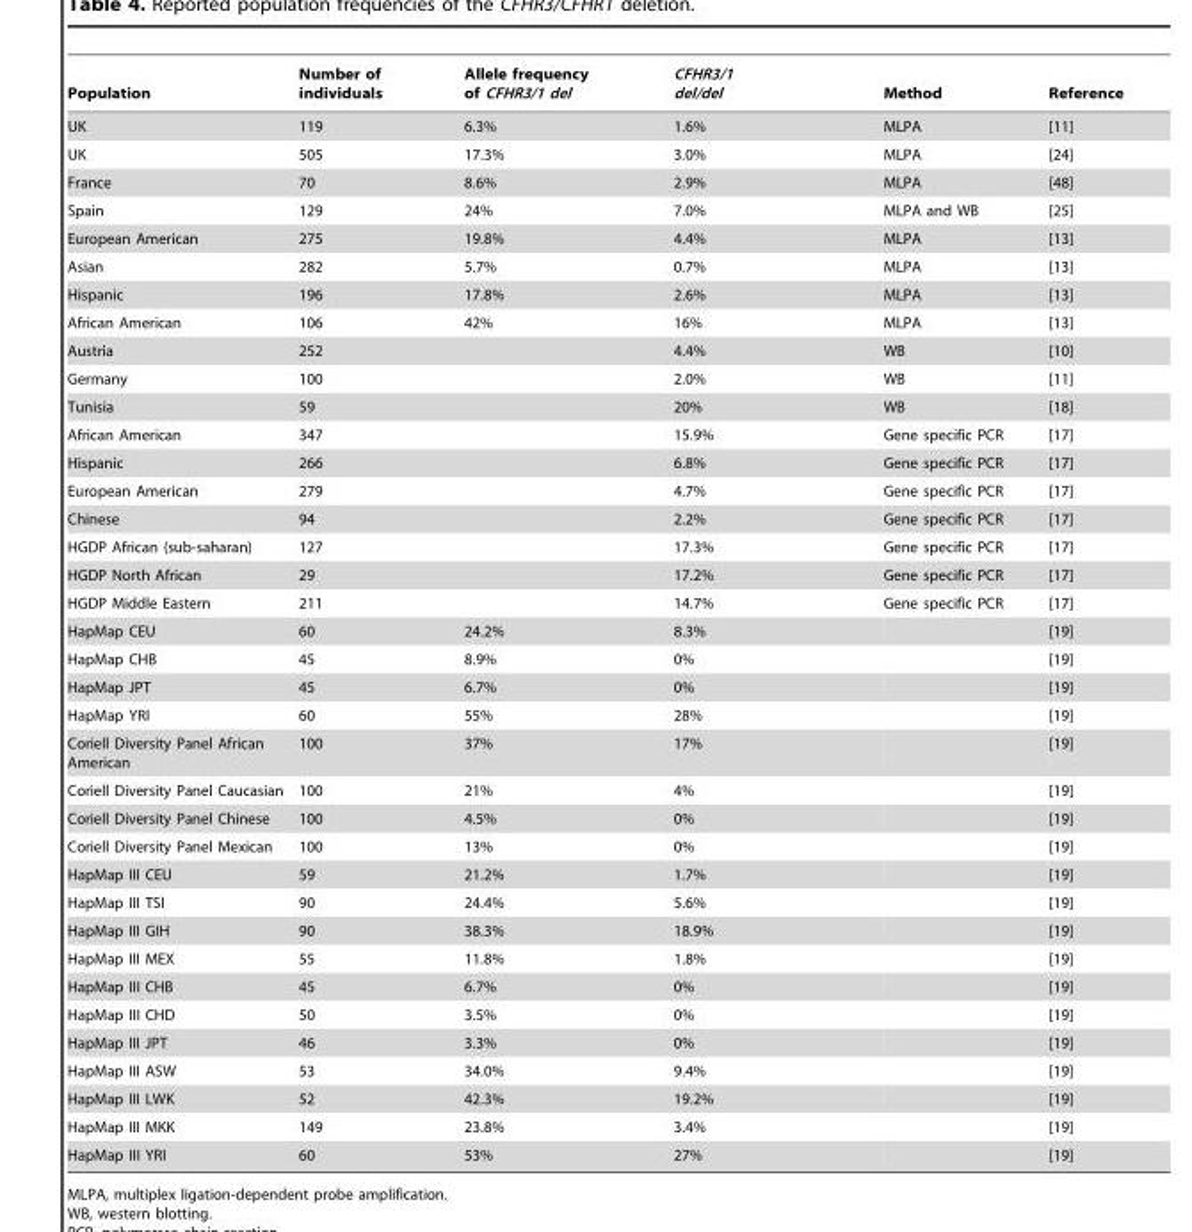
<table><thead><tr><td>Population</td><td>Number of individuals</td><td>Allele frequency of CFHR3/1 del</td><td>CFHR3/1 del/del</td><td>Method</td><td>Reference</td></tr></thead><tbody><tr><td>UK</td><td>119</td><td>6.3%</td><td>1.6%</td><td>MLPA</td><td>[11]</td></tr><tr><td>UK</td><td>505</td><td>17.3%</td><td>3.0%</td><td>MLPA</td><td>[24]</td></tr><tr><td>France</td><td>70</td><td>8.6%</td><td>2.9%</td><td>MLPA</td><td>[48]</td></tr><tr><td>Spain</td><td>129</td><td>24%</td><td>7.0%</td><td>MLPA and WB</td><td>[25]</td></tr><tr><td>European American</td><td>275</td><td>19.8%</td><td>4.4%</td><td>MLPA</td><td>[13]</td></tr><tr><td>Asian</td><td>282</td><td>5.7%</td><td>0.7%</td><td>MLPA</td><td>[13]</td></tr><tr><td>Hispanic</td><td>196</td><td>17.8%</td><td>2.6%</td><td>MLPA</td><td>[13]</td></tr><tr><td>African American</td><td>106</td><td>42%</td><td>16%</td><td>MLPA</td><td>[13]</td></tr><tr><td>Austria</td><td>252</td><td></td><td>4.4%</td><td>WB</td><td>[10]</td></tr><tr><td>Germany</td><td>100</td><td></td><td>2.0%</td><td>WB</td><td>[11]</td></tr><tr><td>Tunisia</td><td>59</td><td></td><td>20%</td><td>WB</td><td>[18]</td></tr><tr><td>African American</td><td>347</td><td></td><td>15.9%</td><td>Gene specific PCR</td><td>[17]</td></tr><tr><td>Hispanic</td><td>266</td><td></td><td>6.8%</td><td>Gene specific PCR</td><td>[17]</td></tr><tr><td>European American</td><td>279</td><td></td><td>4.7%</td><td>Gene specific PCR</td><td>[17]</td></tr><tr><td>Chinese</td><td>94</td><td></td><td>2.2%</td><td>Gene specific PCR</td><td>[17]</td></tr><tr><td>HGDP African (sub-saharan)</td><td>127</td><td></td><td>17.3%</td><td>Gene specific PCR</td><td>[17]</td></tr><tr><td>HGDP North African</td><td>29</td><td></td><td>17.2%</td><td>Gene specific PCR</td><td>[17]</td></tr><tr><td>HGDP Middle Eastern</td><td>211</td><td></td><td>14.7%</td><td>Gene specific PCR</td><td>[17]</td></tr><tr><td>HapMap CEU</td><td>60</td><td>24.2%</td><td>8.3%</td><td></td><td>[19]</td></tr><tr><td>HapMap CHB</td><td>45</td><td>8.9%</td><td>0%</td><td></td><td>[19]</td></tr><tr><td>HapMap JPT</td><td>45</td><td>6.7%</td><td>0%</td><td></td><td>[19]</td></tr><tr><td>HapMap YRI</td><td>60</td><td>55%</td><td>28%</td><td></td><td>[19]</td></tr><tr><td>Coriell Diversity Panel African American</td><td>100</td><td>37%</td><td>17%</td><td></td><td>[19]</td></tr><tr><td>Coriell Diversity Panel Caucasian</td><td>100</td><td>21%</td><td>4%</td><td></td><td>[19]</td></tr><tr><td>Coriell Diversity Panel Chinese</td><td>100</td><td>4.5%</td><td>0%</td><td></td><td>[19]</td></tr><tr><td>Coriell Diversity Panel Mexican</td><td>100</td><td>13%</td><td>0%</td><td></td><td>[19]</td></tr><tr><td>HapMap III CEU</td><td>59</td><td>21.2%</td><td>1.7%</td><td></td><td>[19]</td></tr><tr><td>HapMap III TSI</td><td>90</td><td>24.4%</td><td>5.6%</td><td></td><td>[19]</td></tr><tr><td>HapMap III GIH</td><td>90</td><td>38.3%</td><td>18.9%</td><td></td><td>[19]</td></tr><tr><td>HapMap III MEX</td><td>55</td><td>11.8%</td><td>1.8%</td><td></td><td>[19]</td></tr><tr><td>HapMap III CHB</td><td>45</td><td>6.7%</td><td>0%</td><td></td><td>[19]</td></tr><tr><td>HapMap III CHD</td><td>50</td><td>3.5%</td><td>0%</td><td></td><td>[19]</td></tr><tr><td>HapMap III JPT</td><td>46</td><td>3.3%</td><td>0%</td><td></td><td>[19]</td></tr><tr><td>HapMap III ASW</td><td>53</td><td>34.0%</td><td>9.4%</td><td></td><td>[19]</td></tr><tr><td>HapMap III LWK</td><td>52</td><td>42.3%</td><td>19.2%</td><td></td><td>[19]</td></tr><tr><td>HapMap III MKK</td><td>149</td><td>23.8%</td><td>3.4%</td><td></td><td>[19]</td></tr><tr><td>HapMap III YRI</td><td>60</td><td>53%</td><td>27%</td><td></td><td>[19]</td></tr></tbody></table>